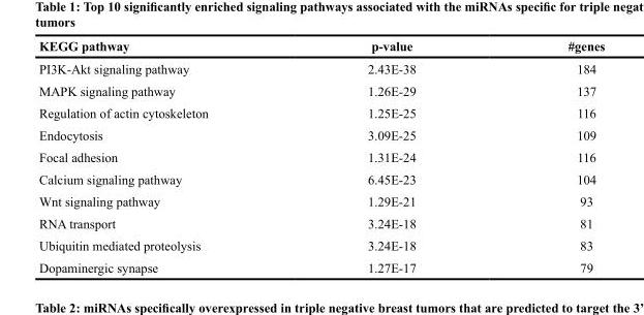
<table><thead><tr><td>KEGG pathway</td><td>p-value</td><td>#genes</td></tr></thead><tbody><tr><td>PI3K-Akt signaling pathway</td><td>2.43E-38</td><td>184</td></tr><tr><td>MAPK signaling pathway</td><td>1.26E-29</td><td>137</td></tr><tr><td>Regulation of actin cytoskeleton</td><td>1.25E-25</td><td>116</td></tr><tr><td>Endocytosis</td><td>3.09E-25</td><td>109</td></tr><tr><td>Focal adhesion</td><td>1.31E-24</td><td>116</td></tr><tr><td>Calcium signaling pathway</td><td>6.45E-23</td><td>104</td></tr><tr><td>Wnt signaling pathway</td><td>1.29E-21</td><td>93</td></tr><tr><td>RNA transport</td><td>3.24E-18</td><td>81</td></tr><tr><td>Ubiquitin mediated proteolysis</td><td>3.24E-18</td><td>83</td></tr><tr><td>Dopaminergic synapse</td><td>1.27E-17</td><td>79</td></tr></tbody></table>